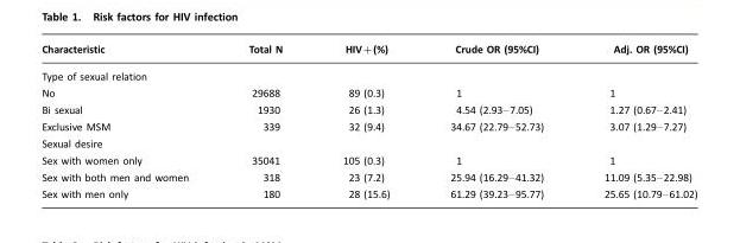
<table><thead><tr><td>Characteristic</td><td>Total N</td><td>HIV+(%)</td><td>Crude OR (95%CI)</td><td>Adj. OR (95%CI)</td></tr></thead><tbody><tr><td colspan="5">Type of sexual relation</td></tr><tr><td>No</td><td>29688</td><td>89 (0.3)</td><td>1</td><td>1</td></tr><tr><td>Bi sexual</td><td>1930</td><td>26 (1.3)</td><td>4.54 (2.93–7.05)</td><td>1.27 (0.67–2.41)</td></tr><tr><td>Exclusive MSM</td><td>339</td><td>32 (9.4)</td><td>34.67 (22.79–52.73)</td><td>3.07 (1.29–7.27)</td></tr><tr><td colspan="5">Sexual desire</td></tr><tr><td>Sex with women only</td><td>35041</td><td>105 (0.3)</td><td>1</td><td>1</td></tr><tr><td>Sex with both men and women</td><td>318</td><td>23 (7.2)</td><td>25.94 (16.29–41.32)</td><td>11.09 (5.35–22.98)</td></tr><tr><td>Sex with men only</td><td>180</td><td>28 (15.6)</td><td>61.29 (39.23–95.77)</td><td>25.65 (10.79–61.02)</td></tr></tbody></table>